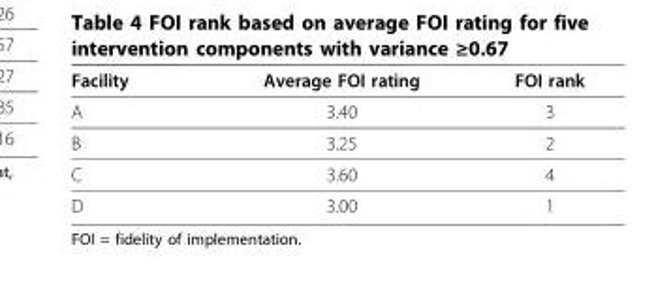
<table><thead><tr><td>Facility</td><td>Average FOI rating</td><td>FOI rank</td></tr></thead><tbody><tr><td>A</td><td>3.40</td><td>3</td></tr><tr><td>B</td><td>3.25</td><td>2</td></tr><tr><td>C</td><td>3.60</td><td>4</td></tr><tr><td>D</td><td>3.00</td><td>1</td></tr></tbody></table>